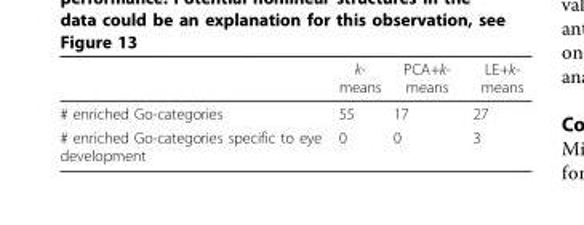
<table><thead><tr><td></td><td>k- means</td><td>PCA+k- means</td><td>LE+k- means</td></tr></thead><tbody><tr><td># enriched Go-categories</td><td>55</td><td>17</td><td>27</td></tr><tr><td># enriched Go-categories specific to eye development</td><td>0</td><td>0</td><td>3</td></tr></tbody></table>